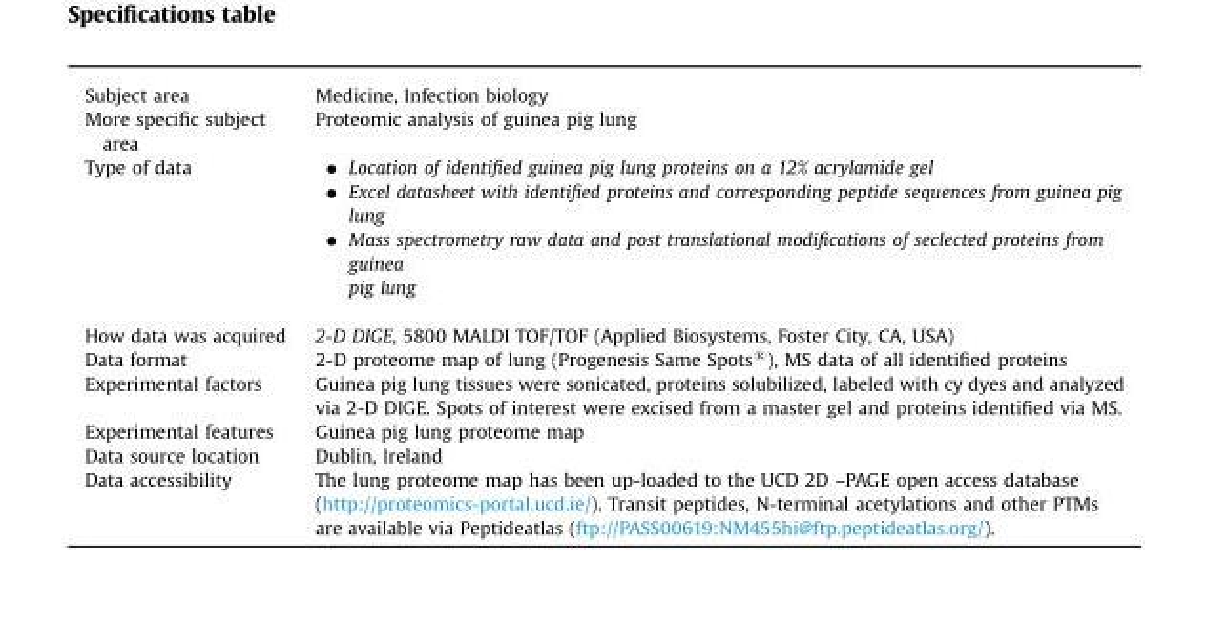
<table><tbody><tr><td>Subject area</td><td>Medicine, Infection biology</td></tr><tr><td>More specific subject area</td><td>Proteomic analysis of guinea pig lung</td></tr><tr><td>Type of data</td><td>• Location of identified guinea pig lung proteins on a 12% acrylamide gel • Excel datasheet with identified proteins and corresponding peptide sequences from guinea pig lung • Mass spectrometry raw data and post translational modifications of seclected proteins from guinea pig lung</td></tr><tr><td>How data was acquired</td><td>2-D DIGE, 5800 MALDI TOF/TOF (Applied Biosystems, Foster City, CA, USA)</td></tr><tr><td>Data format</td><td>2-D proteome map of lung (Progenesis Same Spots<sup>®</sup>), MS data of all identified proteins</td></tr><tr><td>Experimental factors</td><td>Guinea pig lung tissues were sonicated, proteins solubilized, labeled with cy dyes and analyzed via 2-D DIGE. Spots of interest were excised from a master gel and proteins identified via MS.</td></tr><tr><td>Experimental features</td><td>Guinea pig lung proteome map</td></tr><tr><td>Data source location</td><td>Dublin, Ireland</td></tr><tr><td>Data accessibility</td><td>The lung proteome map has been up-loaded to the UCD 2D –PAGE open access database (http://proteomics-portal.ucd.ie/). Transit peptides, N-terminal acetylations and other PTMs are available via Peptideatlas (ftp://PASS00619:NM455hi@ftp.peptideatlas.org/).</td></tr></tbody></table>